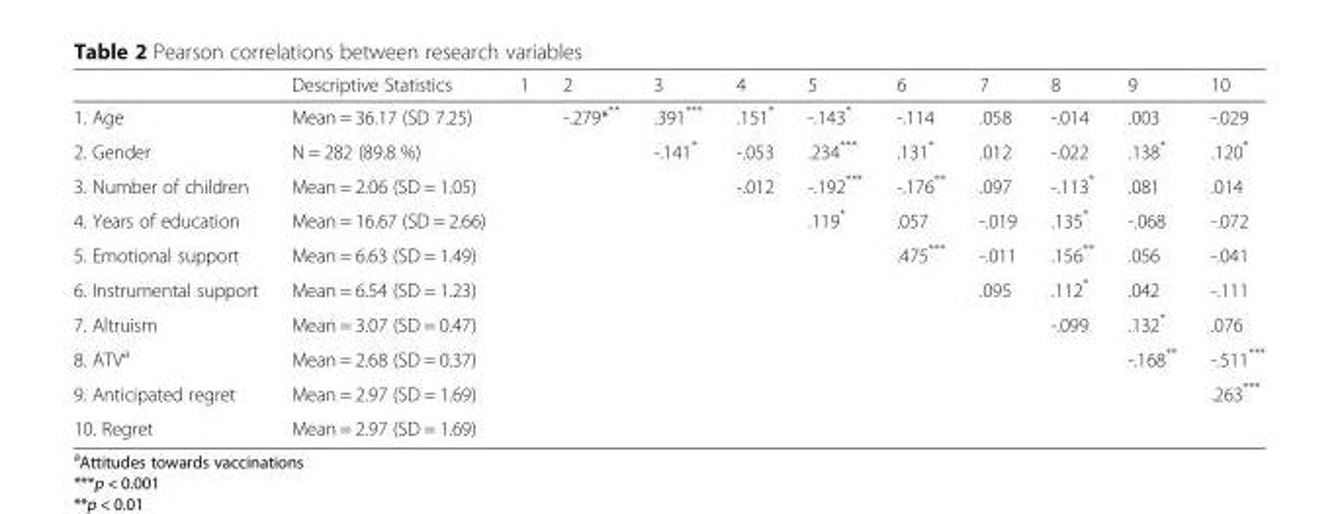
<table><thead><tr><td></td><td>Descriptive Statistics</td><td>1</td><td>2</td><td>3</td><td>4</td><td>5</td><td>6</td><td>7</td><td>8</td><td>9</td><td>10</td></tr></thead><tbody><tr><td>1. Age</td><td>Mean = 36.17 (SD 7.25)</td><td></td><td>-.279***</td><td>.391***</td><td>.151*</td><td>-.143*</td><td>-.114</td><td>.058</td><td>-.014</td><td>.003</td><td>-.029</td></tr><tr><td>2. Gender</td><td>N = 282 (89.8 %)</td><td></td><td></td><td>-.141*</td><td>-.053</td><td>.234***</td><td>.131*</td><td>.012</td><td>-.022</td><td>.138*</td><td>.120*</td></tr><tr><td>3. Number of children</td><td>Mean = 2.06 (SD = 1.05)</td><td></td><td></td><td></td><td>-.012</td><td>-.192***</td><td>-.176**</td><td>.097</td><td>-.113*</td><td>.081</td><td>.014</td></tr><tr><td>4. Years of education</td><td>Mean = 16.67 (SD = 2.66)</td><td></td><td></td><td></td><td></td><td>.119*</td><td>.057</td><td>-.019</td><td>.135*</td><td>-.068</td><td>-.072</td></tr><tr><td>5. Emotional support</td><td>Mean = 6.63 (SD = 1.49)</td><td></td><td></td><td></td><td></td><td></td><td>.475***</td><td>-.011</td><td>.156**</td><td>.056</td><td>-.041</td></tr><tr><td>6. Instrumental support</td><td>Mean = 6.54 (SD = 1.23)</td><td></td><td></td><td></td><td></td><td></td><td></td><td>.095</td><td>.112*</td><td>.042</td><td>-.111</td></tr><tr><td>7. Altruism</td><td>Mean = 3.07 (SD = 0.47)</td><td></td><td></td><td></td><td></td><td></td><td></td><td></td><td>-.099</td><td>.132*</td><td>.076</td></tr><tr><td>8. ATV<sup>a</sup></td><td>Mean = 2.68 (SD = 0.37)</td><td></td><td></td><td></td><td></td><td></td><td></td><td></td><td></td><td>-.168**</td><td>-.511***</td></tr><tr><td>9. Anticipated regret</td><td>Mean = 2.97 (SD = 1.69)</td><td></td><td></td><td></td><td></td><td></td><td></td><td></td><td></td><td></td><td>.263***</td></tr><tr><td>10. Regret</td><td>Mean = 2.97 (SD = 1.69)</td><td></td><td></td><td></td><td></td><td></td><td></td><td></td><td></td><td></td><td></td></tr></tbody></table>